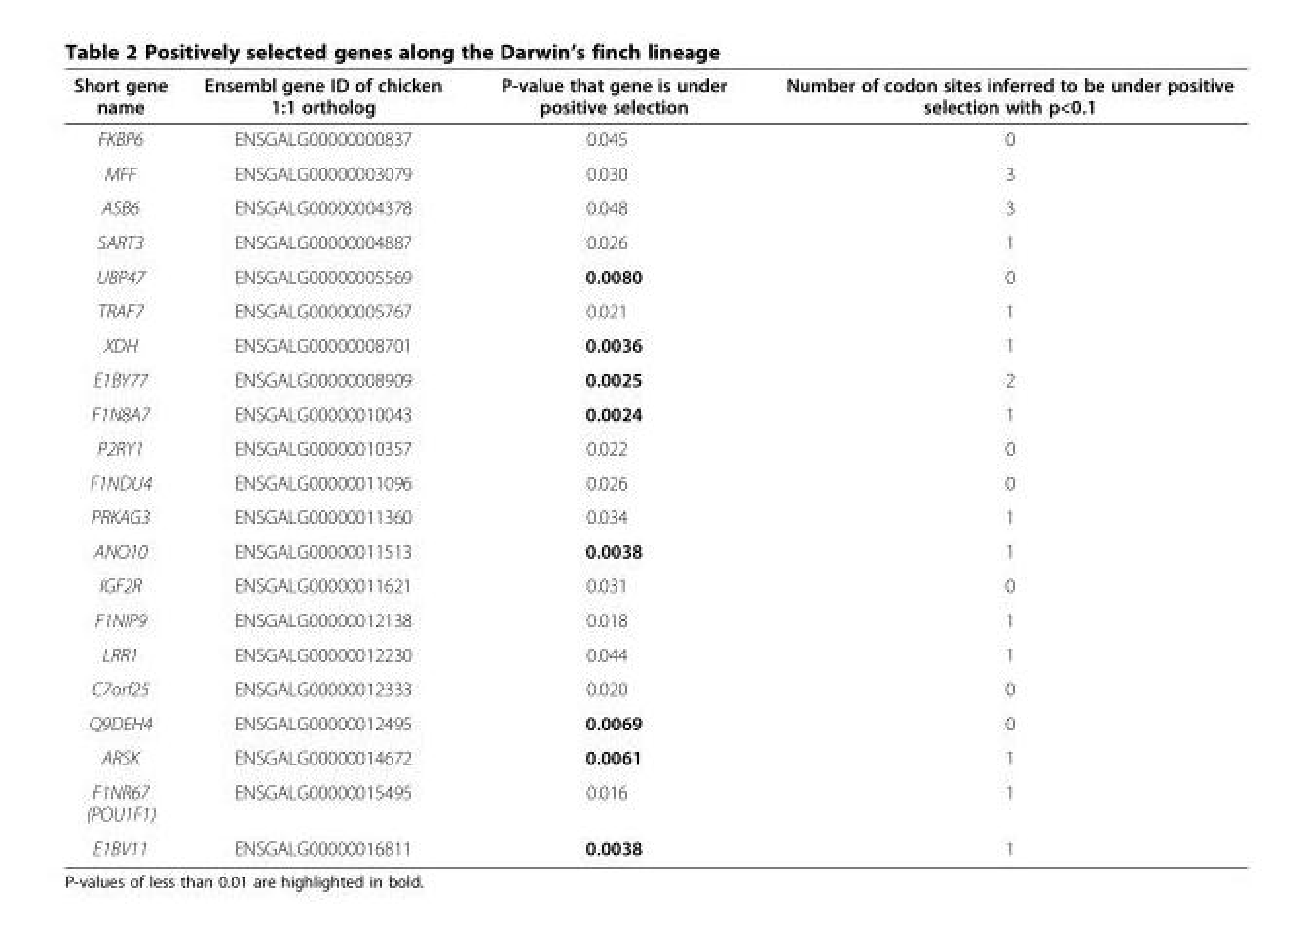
<table><thead><tr><td>Short gene name</td><td>Ensembl gene ID of chicken 1:1 ortholog</td><td>P-value that gene is under positive selection</td><td>Number of codon sites inferred to be under positive selection with p&lt;0.1</td></tr></thead><tbody><tr><td>FKBP6</td><td>ENSGALG00000000837</td><td>0.045</td><td>0</td></tr><tr><td>MFF</td><td>ENSGALG00000003079</td><td>0.030</td><td>3</td></tr><tr><td>ASB6</td><td>ENSGALG00000004378</td><td>0.048</td><td>3</td></tr><tr><td>SART3</td><td>ENSGALG00000004887</td><td>0.026</td><td>1</td></tr><tr><td>UBP47</td><td>ENSGALG00000005569</td><td>0.0080</td><td>0</td></tr><tr><td>TRAF7</td><td>ENSGALG00000005767</td><td>0.021</td><td>1</td></tr><tr><td>XDH</td><td>ENSGALG00000008701</td><td>0.0036</td><td>1</td></tr><tr><td>E1BY77</td><td>ENSGALG00000008909</td><td>0.0025</td><td>2</td></tr><tr><td>F1N8A7</td><td>ENSGALG00000010043</td><td>0.0024</td><td>1</td></tr><tr><td>P2RY1</td><td>ENSGALG00000010357</td><td>0.022</td><td>0</td></tr><tr><td>F1NDU4</td><td>ENSGALG00000011096</td><td>0.026</td><td>0</td></tr><tr><td>PRKAG3</td><td>ENSGALG00000011360</td><td>0.034</td><td>1</td></tr><tr><td>ANO10</td><td>ENSGALG00000011513</td><td>0.0038</td><td>1</td></tr><tr><td>IGF2R</td><td>ENSGALG00000011621</td><td>0.031</td><td>0</td></tr><tr><td>F1NIP9</td><td>ENSGALG00000012138</td><td>0.018</td><td>1</td></tr><tr><td>LRR1</td><td>ENSGALG00000012230</td><td>0.044</td><td>1</td></tr><tr><td>C7orf25</td><td>ENSGALG00000012333</td><td>0.020</td><td>0</td></tr><tr><td>Q9DEH4</td><td>ENSGALG00000012495</td><td>0.0069</td><td>0</td></tr><tr><td>ARSK</td><td>ENSGALG00000014672</td><td>0.0061</td><td>1</td></tr><tr><td>F1NR67 (POU1F1)</td><td>ENSGALG00000015495</td><td>0.016</td><td>1</td></tr><tr><td>E1BV11</td><td>ENSGALG00000016811</td><td>0.0038</td><td>1</td></tr></tbody></table>